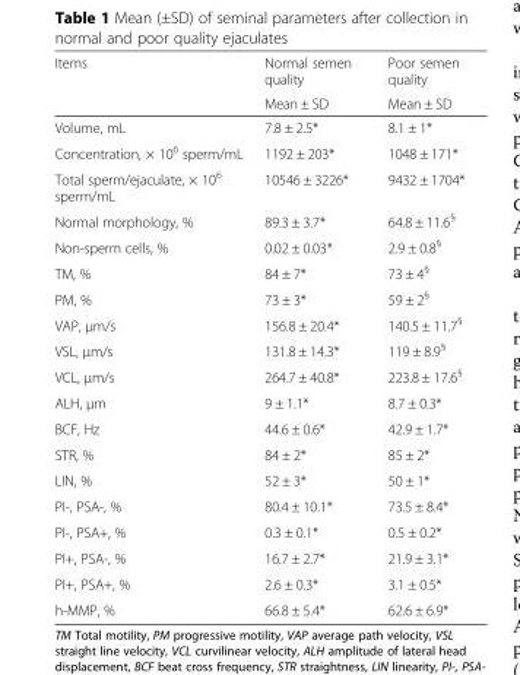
<table><thead><tr><td rowspan="2">Items</td><td rowspan="2">Normal semen quality Mean ± SD</td><td rowspan="2">Poor semen quality Mean ± SD</td></tr><tr></tr></thead><tbody><tr><td>Volume, mL</td><td>7.8 ± 2.5*</td><td>8.1 ± 1*</td></tr><tr><td>Concentration, × 10<sup>6</sup> sperm/mL</td><td>1192 ± 203*</td><td>1048 ± 171*</td></tr><tr><td>Total sperm/ejaculate, × 10<sup>6</sup> sperm/mL</td><td>10546 ± 3226*</td><td>9432 ± 1704*</td></tr><tr><td>Normal morphology, %</td><td>89.3 ± 3.7*</td><td>64.8 ± 11.6<sup>§</sup></td></tr><tr><td>Non-sperm cells, %</td><td>0.02 ± 0.03*</td><td>2.9 ± 0.8<sup>§</sup></td></tr><tr><td>TM, %</td><td>84 ± 7*</td><td>73 ± 4<sup>§</sup></td></tr><tr><td>PM, %</td><td>73 ± 3*</td><td>59 ± 2<sup>§</sup></td></tr><tr><td>VAP, μm/s</td><td>156.8 ± 20.4*</td><td>140.5 ± 11.7<sup>§</sup></td></tr><tr><td>VSL, μm/s</td><td>131.8 ± 14.3*</td><td>119 ± 8.9<sup>§</sup></td></tr><tr><td>VCL, μm/s</td><td>264.7 ± 40.8*</td><td>223.8 ± 17.6<sup>§</sup></td></tr><tr><td>ALH, μm</td><td>9 ± 1.1*</td><td>8.7 ± 0.3*</td></tr><tr><td>BCF, Hz</td><td>44.6 ± 0.6*</td><td>42.9 ± 1.7*</td></tr><tr><td>STR, %</td><td>84 ± 2*</td><td>85 ± 2*</td></tr><tr><td>LIN, %</td><td>52 ± 3*</td><td>50 ± 1*</td></tr><tr><td>PI-, PSA-, %</td><td>80.4 ± 10.1*</td><td>73.5 ± 8.4*</td></tr><tr><td>PI-, PSA+, %</td><td>0.3 ± 0.1*</td><td>0.5 ± 0.2*</td></tr><tr><td>PI+, PSA-, %</td><td>16.7 ± 2.7*</td><td>21.9 ± 3.1*</td></tr><tr><td>PI+, PSA+, %</td><td>2.6 ± 0.3*</td><td>3.1 ± 0.5*</td></tr><tr><td>h-MMP, %</td><td>66.8 ± 5.4*</td><td>62.6 ± 6.9*</td></tr></tbody></table>